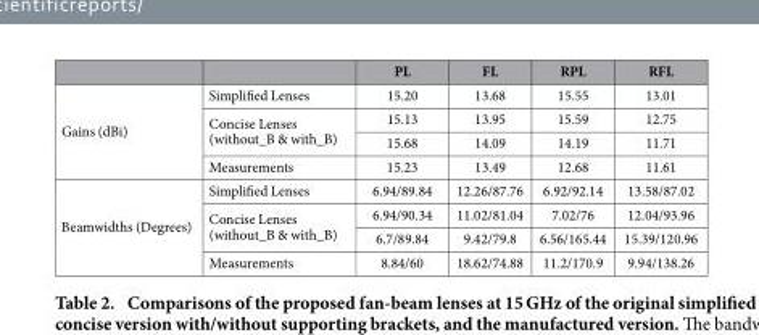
<table><thead><tr><td></td><td></td><td>PL</td><td>FL</td><td>RPL</td><td>RFL</td></tr></thead><tbody><tr><td rowspan="4">Gains (dBi)</td><td>Simplified Lenses</td><td>15.20</td><td>13.68</td><td>15.55</td><td>13.01</td></tr><tr><td rowspan="2">Concise Lenses (without_B &amp; with_B)</td><td>15.13</td><td>13.95</td><td>15.59</td><td>12.75</td></tr><tr><td>15.68</td><td>14.09</td><td>14.19</td><td>11.71</td></tr><tr><td>Measurements</td><td>15.23</td><td>13.49</td><td>12.68</td><td>11.61</td></tr><tr><td rowspan="4">Beamwidths (Degrees)</td><td>Simplified Lenses</td><td>6.94/89.84</td><td>12.26/87.76</td><td>6.92/92.14</td><td>13.58/87.02</td></tr><tr><td rowspan="2">Concise Lenses (without_B &amp; with_B)</td><td>6.94/90.34</td><td>11.02/81.04</td><td>7.02/76</td><td>12.04/93.96</td></tr><tr><td>6.7/89.84</td><td>9.42/79.8</td><td>6.56/165.44</td><td>15.39/120.96</td></tr><tr><td>Measurements</td><td>8.84/60</td><td>18.62/74.88</td><td>11.2/170.9</td><td>9.94/138.26</td></tr></tbody></table>